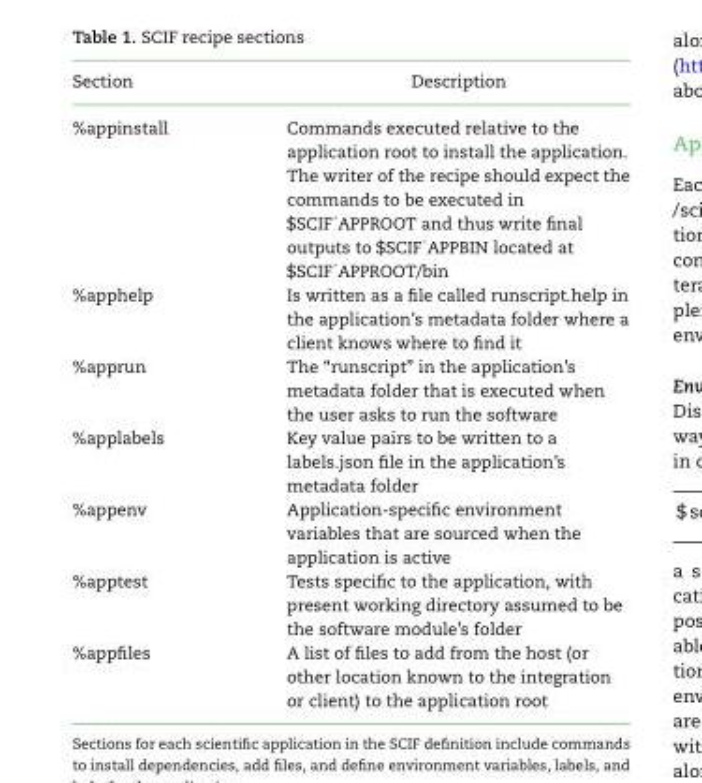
<table><thead><tr><td>Section</td><td>Description</td></tr></thead><tbody><tr><td>%appinstall</td><td>Commands executed relative to the application root to install the application. The writer of the recipe should expect the commands to be executed in $SCIF˙APPROOT and thus write final outputs to $SCIF˙APPBIN located at $SCIF˙APPROOT/bin</td></tr><tr><td>%apphelp</td><td>Is written as a file called runscript.help in the application’s metadata folder where a client knows where to find it</td></tr><tr><td>%apprun</td><td>The “runscript” in the application’s metadata folder that is executed when the user asks to run the software</td></tr><tr><td>%applabels</td><td>Key value pairs to be written to a labels.json file in the application’s metadata folder</td></tr><tr><td>%appenv</td><td>Application-specific environment variables that are sourced when the application is active</td></tr><tr><td>%apptest</td><td>Tests specific to the application, with present working directory assumed to be the software module’s folder</td></tr><tr><td>%appfiles</td><td>A list of files to add from the host (or other location known to the integration or client) to the application root</td></tr></tbody></table>